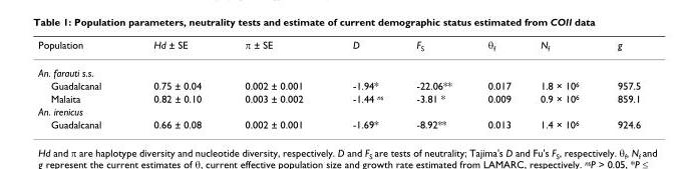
<table><thead><tr><td>Population</td><td>Hd ± SE</td><td>π ± SE</td><td>D</td><td>F<sub>S</sub></td><td>θ<sub>f</sub></td><td>N<sub>f</sub></td><td>g</td></tr></thead><tbody><tr><td colspan="8">An. farauti s.s.</td></tr><tr><td>Guadalcanal</td><td>0.75 ± 0.04</td><td>0.002 ± 0.001</td><td>-1.94*</td><td>-22.06**</td><td>0.017</td><td>1.8 × 10<sup>6</sup></td><td>957.5</td></tr><tr><td>Malaita</td><td>0.82 ± 0.10</td><td>0.003 ± 0.002</td><td>-1.44 <sup>ns</sup></td><td>-3.81 *</td><td>0.009</td><td>0.9 × 10<sup>6</sup></td><td>859.1</td></tr><tr><td colspan="8">An. irenicus</td></tr><tr><td>Guadalcanal</td><td>0.66 ± 0.08</td><td>0.002 ± 0.001</td><td>-1.69*</td><td>-8.92**</td><td>0.013</td><td>1.4 × 10<sup>6</sup></td><td>924.6</td></tr></tbody></table>